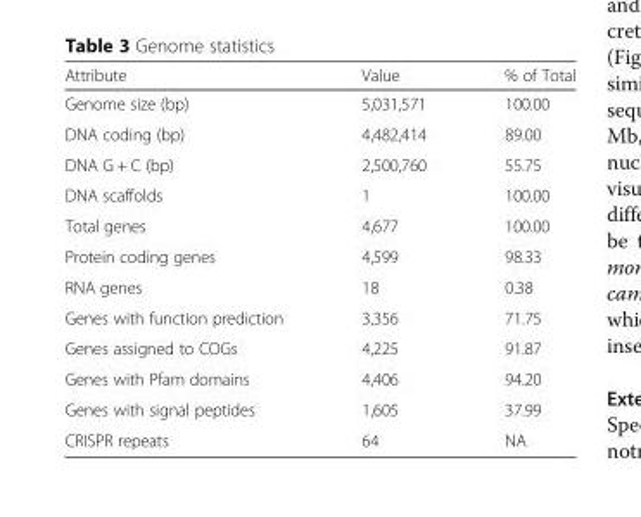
<table><thead><tr><td>Attribute</td><td>Value</td><td>% of Total</td></tr></thead><tbody><tr><td>Genome size (bp)</td><td>5,031,571</td><td>100.00</td></tr><tr><td>DNA coding (bp)</td><td>4,482,414</td><td>89.00</td></tr><tr><td>DNA G + C (bp)</td><td>2,500,760</td><td>55.75</td></tr><tr><td>DNA scaffolds</td><td>1</td><td>100.00</td></tr><tr><td>Total genes</td><td>4,677</td><td>100.00</td></tr><tr><td>Protein coding genes</td><td>4,599</td><td>98.33</td></tr><tr><td>RNA genes</td><td>18</td><td>0.38</td></tr><tr><td>Genes with function prediction</td><td>3,356</td><td>71.75</td></tr><tr><td>Genes assigned to COGs</td><td>4,225</td><td>91.87</td></tr><tr><td>Genes with Pfam domains</td><td>4,406</td><td>94.20</td></tr><tr><td>Genes with signal peptides</td><td>1,605</td><td>37.99</td></tr><tr><td>CRISPR repeats</td><td>64</td><td>NA</td></tr></tbody></table>